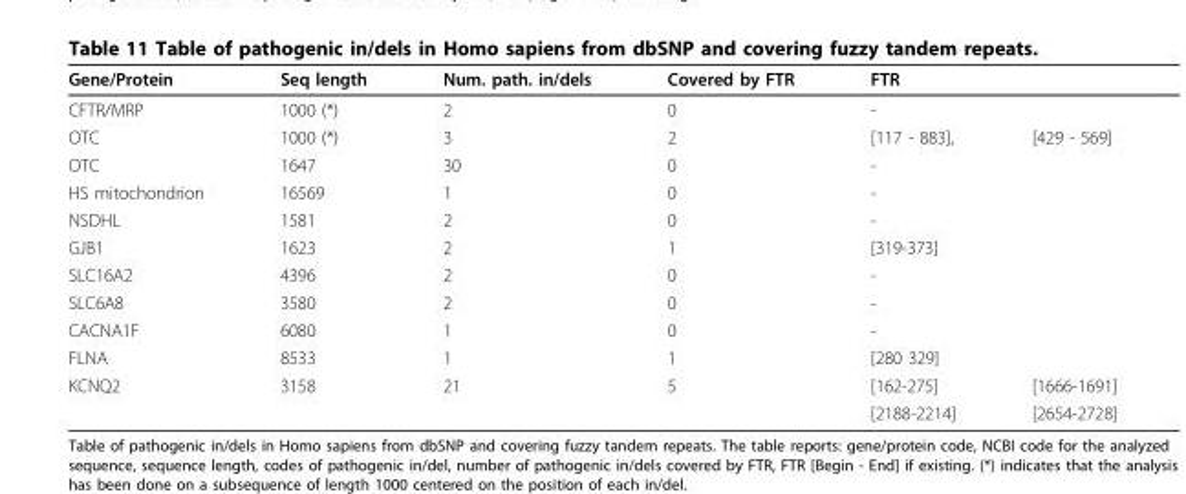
<table><thead><tr><td>Gene/Protein</td><td>Seq length</td><td>Num. path. in/dels</td><td>Covered by FTR</td><td>FTR</td><td></td></tr></thead><tbody><tr><td>CFTR/MRP</td><td>1000 (*)</td><td>2</td><td>0</td><td>-</td><td></td></tr><tr><td>OTC</td><td>1000 (*)</td><td>3</td><td>2</td><td>[117 - 883],</td><td>[429 - 569]</td></tr><tr><td>OTC</td><td>1647</td><td>30</td><td>0</td><td>-</td><td></td></tr><tr><td>HS mitochondrion</td><td>16569</td><td>1</td><td>0</td><td>-</td><td></td></tr><tr><td>NSDHL</td><td>1581</td><td>2</td><td>0</td><td>-</td><td></td></tr><tr><td>GJB1</td><td>1623</td><td>2</td><td>1</td><td>[319-373]</td><td></td></tr><tr><td>SLC16A2</td><td>4396</td><td>2</td><td>0</td><td>-</td><td></td></tr><tr><td>SLC6A8</td><td>3580</td><td>2</td><td>0</td><td>-</td><td></td></tr><tr><td>CACNA1F</td><td>6080</td><td>1</td><td>0</td><td>-</td><td></td></tr><tr><td>FLNA</td><td>8533</td><td>1</td><td>1</td><td>[280 329]</td><td></td></tr><tr><td rowspan="2">KCNQ2</td><td>3158</td><td>21</td><td>5</td><td>[162-275]</td><td>[1666-1691]</td></tr><tr><td></td><td></td><td></td><td>[2188-2214]</td><td>[2654-2728]</td></tr></tbody></table>